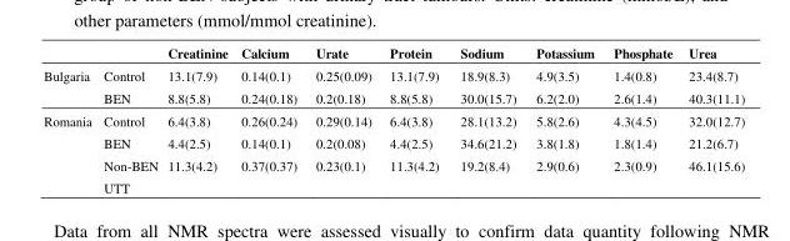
<table><thead><tr><td></td><td></td><td>Creatinine</td><td>Calcium</td><td>Urate</td><td>Protein</td><td>Sodium</td><td>Potassium</td><td>Phosphate</td><td>Urea</td></tr></thead><tbody><tr><td rowspan="2">Bulgaria</td><td>Control</td><td>13.1(7.9)</td><td>0.14(0.1)</td><td>0.25(0.09)</td><td>13.1(7.9)</td><td>18.9(8.3)</td><td>4.9(3.5)</td><td>1.4(0.8)</td><td>23.4(8.7)</td></tr><tr><td>BEN</td><td>8.8(5.8)</td><td>0.24(0.18)</td><td>0.2(0.18)</td><td>8.8(5.8)</td><td>30.0(15.7)</td><td>6.2(2.0)</td><td>2.6(1.4)</td><td>40.3(11.1)</td></tr><tr><td rowspan="3">Romania</td><td>Control</td><td>6.4(3.8)</td><td>0.26(0.24)</td><td>0.29(0.14)</td><td>6.4(3.8)</td><td>28.1(13.2)</td><td>5.8(2.6)</td><td>4.3(4.5)</td><td>32.0(12.7)</td></tr><tr><td>BEN</td><td>4.4(2.5)</td><td>0.14(0.1)</td><td>0.2(0.08)</td><td>4.4(2.5)</td><td>34.6(21.2)</td><td>3.8(1.8)</td><td>1.8(1.4)</td><td>21.2(6.7)</td></tr><tr><td>Non-BEN UTT</td><td>11.3(4.2)</td><td>0.37(0.37)</td><td>0.23(0.1)</td><td>11.3(4.2)</td><td>19.2(8.4)</td><td>2.9(0.6)</td><td>2.3(0.9)</td><td>46.1(15.6)</td></tr></tbody></table>